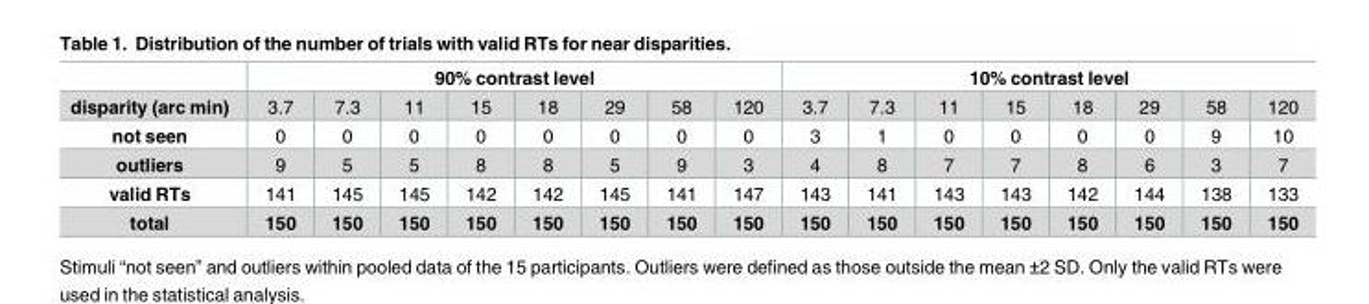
<table><thead><tr><td rowspan="2">disparity (arc min)</td><td colspan="8">90% contrast level</td><td colspan="8">10% contrast level</td></tr><tr><td>3.7</td><td>7.3</td><td>11</td><td>15</td><td>18</td><td>29</td><td>58</td><td>120</td><td>3.7</td><td>7.3</td><td>11</td><td>15</td><td>18</td><td>29</td><td>58</td><td>120</td></tr></thead><tbody><tr><td>not seen</td><td>0</td><td>0</td><td>0</td><td>0</td><td>0</td><td>0</td><td>0</td><td>0</td><td>3</td><td>1</td><td>0</td><td>0</td><td>0</td><td>0</td><td>9</td><td>10</td></tr><tr><td>outliers</td><td>9</td><td>5</td><td>5</td><td>8</td><td>8</td><td>5</td><td>9</td><td>3</td><td>4</td><td>8</td><td>7</td><td>7</td><td>8</td><td>6</td><td>3</td><td>7</td></tr><tr><td>valid RTs</td><td>141</td><td>145</td><td>145</td><td>142</td><td>142</td><td>145</td><td>141</td><td>147</td><td>143</td><td>141</td><td>143</td><td>143</td><td>142</td><td>144</td><td>138</td><td>133</td></tr><tr><td>total</td><td>150</td><td>150</td><td>150</td><td>150</td><td>150</td><td>150</td><td>150</td><td>150</td><td>150</td><td>150</td><td>150</td><td>150</td><td>150</td><td>150</td><td>150</td><td>150</td></tr></tbody></table>